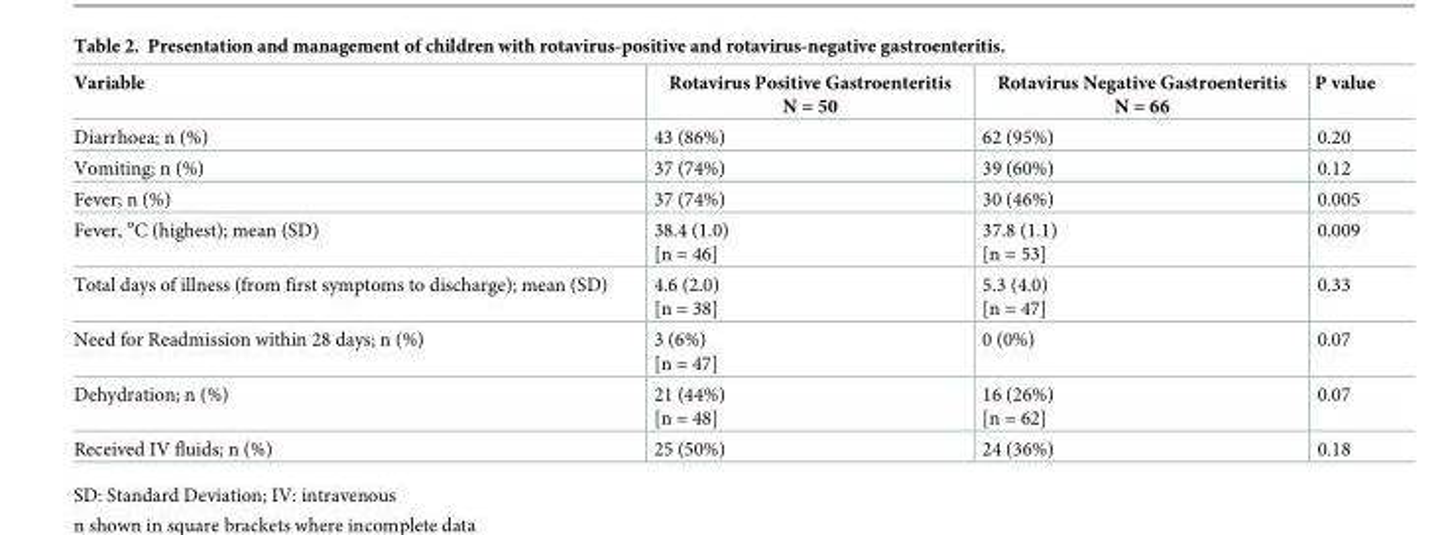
<table><thead><tr><td>Variable</td><td>Rotavirus Positive Gastroenteritis N = 50</td><td>Rotavirus Negative Gastroenteritis N = 66</td><td>P value</td></tr></thead><tbody><tr><td>Diarrhoea; n (%)</td><td>43 (86%)</td><td>62 (95%)</td><td>0.20</td></tr><tr><td>Vomiting; n (%)</td><td>37 (74%)</td><td>39 (60%)</td><td>0.12</td></tr><tr><td>Fever; n (%)</td><td>37 (74%)</td><td>30 (46%)</td><td>0.005</td></tr><tr><td>Fever, <sup>o</sup>C (highest); mean (SD)</td><td>38.4 (1.0) [n = 46]</td><td>37.8 (1.1) [n = 53]</td><td>0.009</td></tr><tr><td>Total days of illness (from first symptoms to discharge); mean (SD)</td><td>4.6 (2.0) [n = 38]</td><td>5.3 (4.0) [n = 47]</td><td>0.33</td></tr><tr><td>Need for Readmission within 28 days; n (%)</td><td>3 (6%) [n = 47]</td><td>0 (0%)</td><td>0.07</td></tr><tr><td>Dehydration; n (%)</td><td>21 (44%) [n = 48]</td><td>16 (26%) [n = 62]</td><td>0.07</td></tr><tr><td>Received IV fluids; n (%)</td><td>25 (50%)</td><td>24 (36%)</td><td>0.18</td></tr></tbody></table>